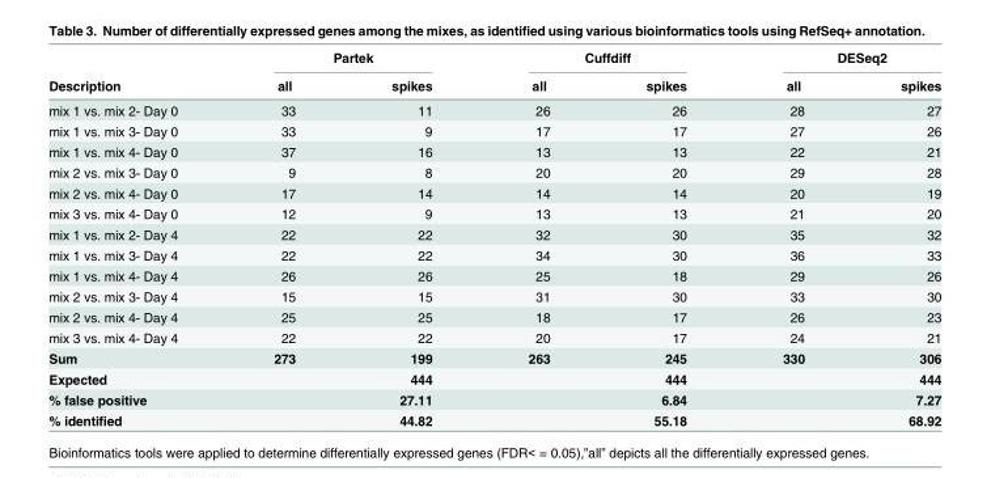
<table><thead><tr><td rowspan="2">Description</td><td colspan="2">Partek</td><td colspan="2">Cuffdiff</td><td colspan="2">DESeq2</td></tr><tr><td>all</td><td>spikes</td><td>all</td><td>spikes</td><td>all</td><td>spikes</td></tr></thead><tbody><tr><td>mix 1 vs. mix 2- Day 0</td><td>33</td><td>11</td><td>26</td><td>26</td><td>28</td><td>27</td></tr><tr><td>mix 1 vs. mix 3- Day 0</td><td>33</td><td>9</td><td>17</td><td>17</td><td>27</td><td>26</td></tr><tr><td>mix 1 vs. mix 4- Day 0</td><td>37</td><td>16</td><td>13</td><td>13</td><td>22</td><td>21</td></tr><tr><td>mix 2 vs. mix 3- Day 0</td><td>9</td><td>8</td><td>20</td><td>20</td><td>29</td><td>28</td></tr><tr><td>mix 2 vs. mix 4- Day 0</td><td>17</td><td>14</td><td>14</td><td>14</td><td>20</td><td>19</td></tr><tr><td>mix 3 vs. mix 4- Day 0</td><td>12</td><td>9</td><td>13</td><td>13</td><td>21</td><td>20</td></tr><tr><td>mix 1 vs. mix 2- Day 4</td><td>22</td><td>22</td><td>32</td><td>30</td><td>35</td><td>32</td></tr><tr><td>mix 1 vs. mix 3- Day 4</td><td>22</td><td>22</td><td>34</td><td>30</td><td>36</td><td>33</td></tr><tr><td>mix 1 vs. mix 4- Day 4</td><td>26</td><td>26</td><td>25</td><td>18</td><td>29</td><td>26</td></tr><tr><td>mix 2 vs. mix 3- Day 4</td><td>15</td><td>15</td><td>31</td><td>30</td><td>33</td><td>30</td></tr><tr><td>mix 2 vs. mix 4- Day 4</td><td>25</td><td>25</td><td>18</td><td>17</td><td>26</td><td>23</td></tr><tr><td>mix 3 vs. mix 4- Day 4</td><td>22</td><td>22</td><td>20</td><td>17</td><td>24</td><td>21</td></tr><tr><td>Sum</td><td>273</td><td>199</td><td>263</td><td>245</td><td>330</td><td>306</td></tr><tr><td>Expected</td><td></td><td>444</td><td></td><td>444</td><td></td><td>444</td></tr><tr><td>% false positive</td><td></td><td>27.11</td><td></td><td>6.84</td><td></td><td>7.27</td></tr><tr><td>% identified</td><td></td><td>44.82</td><td></td><td>55.18</td><td></td><td>68.92</td></tr></tbody></table>